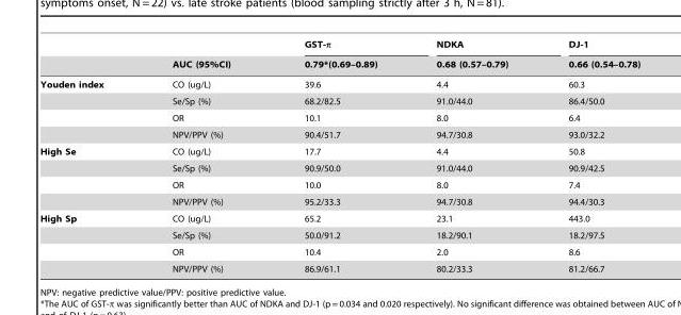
<table><thead><tr><td rowspan="2"></td><td rowspan="2">AUC (95%CI)</td><td rowspan="2">GST-π 0.79*(0.69–0.89)</td><td rowspan="2">NDKA 0.68 (0.57–0.79)</td><td rowspan="2">DJ-1 0.66 (0.54–0.78)</td></tr><tr></tr></thead><tbody><tr><td rowspan="4">Youden index</td><td>CO (ug/L)</td><td>39.6</td><td>4.4</td><td>60.3</td></tr><tr><td>Se/Sp (%)</td><td>68.2/82.5</td><td>91.0/44.0</td><td>86.4/50.0</td></tr><tr><td>OR</td><td>10.1</td><td>8.0</td><td>6.4</td></tr><tr><td>NPV/PPV (%)</td><td>90.4/51.7</td><td>94.7/30.8</td><td>93.0/32.2</td></tr><tr><td rowspan="4">High Se</td><td>CO (ug/L)</td><td>17.7</td><td>4.4</td><td>50.8</td></tr><tr><td>Se/Sp (%)</td><td>90.9/50.0</td><td>91.0/44.0</td><td>90.9/42.5</td></tr><tr><td>OR</td><td>10.0</td><td>8.0</td><td>7.4</td></tr><tr><td>NPV/PPV (%)</td><td>95.2/33.3</td><td>94.7/30.8</td><td>94.4/30.3</td></tr><tr><td rowspan="4">High Sp</td><td>CO (ug/L)</td><td>65.2</td><td>23.1</td><td>443.0</td></tr><tr><td>Se/Sp (%)</td><td>50.0/91.2</td><td>18.2/90.1</td><td>18.2/97.5</td></tr><tr><td>OR</td><td>10.4</td><td>2.0</td><td>8.6</td></tr><tr><td>NPV/PPV (%)</td><td>86.9/61.1</td><td>80.2/33.3</td><td>81.2/66.7</td></tr></tbody></table>